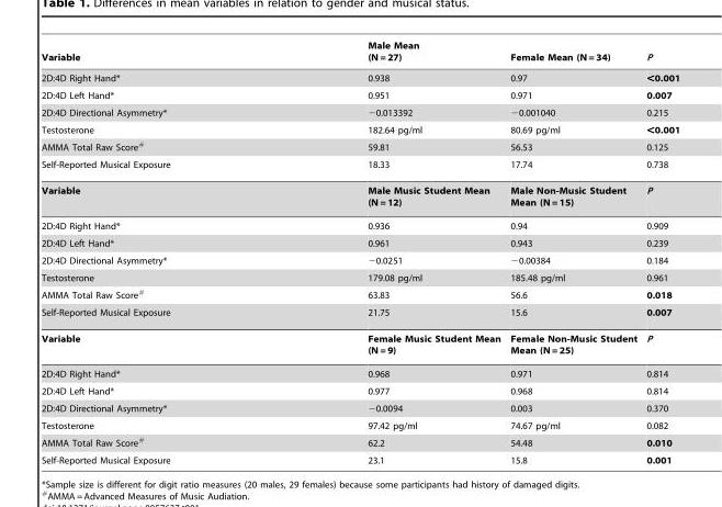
<table><thead><tr><td>Variable</td><td>Male Mean (N = 27)</td><td>Female Mean (N = 34)</td><td>P</td></tr></thead><tbody><tr><td>2D:4D Right Hand*</td><td>0.938</td><td>0.97</td><td>&lt;0.001</td></tr><tr><td>2D:4D Left Hand*</td><td>0.951</td><td>0.971</td><td>0.007</td></tr><tr><td>2D:4D Directional Asymmetry*</td><td>−0.013392</td><td>−0.001040</td><td>0.215</td></tr><tr><td>Testosterone</td><td>182.64 pg/ml</td><td>80.69 pg/ml</td><td>&lt;0.001</td></tr><tr><td>AMMA Total Raw Score#</td><td>59.81</td><td>56.53</td><td>0.125</td></tr><tr><td>Self-Reported Musical Exposure</td><td>18.33</td><td>17.74</td><td>0.738</td></tr><tr><td>Variable</td><td>Male Music Student Mean (N = 12)</td><td>Male Non-Music Student Mean (N = 15)</td><td>P</td></tr><tr><td>2D:4D Right Hand*</td><td>0.936</td><td>0.94</td><td>0.909</td></tr><tr><td>2D:4D Left Hand*</td><td>0.961</td><td>0.943</td><td>0.239</td></tr><tr><td>2D:4D Directional Asymmetry*</td><td>−0.0251</td><td>−0.00384</td><td>0.184</td></tr><tr><td>Testosterone</td><td>179.08 pg/ml</td><td>185.48 pg/ml</td><td>0.961</td></tr><tr><td>AMMA Total Raw Score#</td><td>63.83</td><td>56.6</td><td>0.018</td></tr><tr><td>Self-Reported Musical Exposure</td><td>21.75</td><td>15.6</td><td>0.007</td></tr><tr><td>Variable</td><td>Female Music Student Mean (N = 9)</td><td>Female Non-Music Student Mean (N = 25)</td><td>P</td></tr><tr><td>2D:4D Right Hand*</td><td>0.968</td><td>0.971</td><td>0.814</td></tr><tr><td>2D:4D Left Hand*</td><td>0.977</td><td>0.968</td><td>0.814</td></tr><tr><td>2D:4D Directional Asymmetry*</td><td>−0.0094</td><td>0.003</td><td>0.370</td></tr><tr><td>Testosterone</td><td>97.42 pg/ml</td><td>74.67 pg/ml</td><td>0.082</td></tr><tr><td>AMMA Total Raw Score#</td><td>62.2</td><td>54.48</td><td>0.010</td></tr><tr><td>Self-Reported Musical Exposure</td><td>23.1</td><td>15.8</td><td>0.001</td></tr></tbody></table>